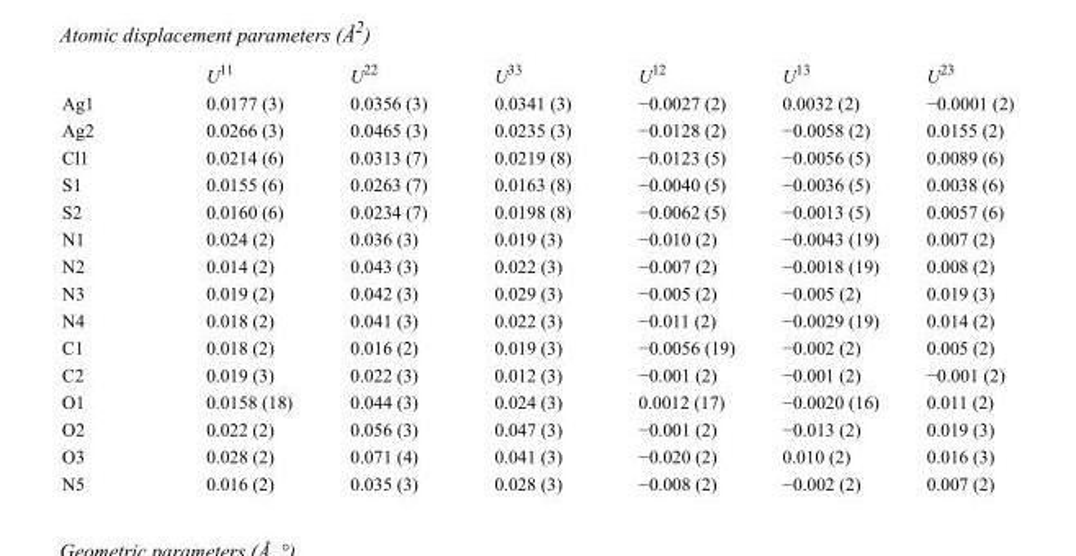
<table><thead><tr><td></td><td>U<sup>11</sup></td><td>U<sup>22</sup></td><td>U<sup>33</sup></td><td>U<sup>12</sup></td><td>U<sup>13</sup></td><td>U<sup>23</sup></td></tr></thead><tbody><tr><td>Ag1</td><td>0.0177 (3)</td><td>0.0356 (3)</td><td>0.0341 (3)</td><td>−0.0027 (2)</td><td>0.0032 (2)</td><td>−0.0001 (2)</td></tr><tr><td>Ag2</td><td>0.0266 (3)</td><td>0.0465 (3)</td><td>0.0235 (3)</td><td>−0.0128 (2)</td><td>−0.0058 (2)</td><td>0.0155 (2)</td></tr><tr><td>Cl1</td><td>0.0214 (6)</td><td>0.0313 (7)</td><td>0.0219 (8)</td><td>−0.0123 (5)</td><td>−0.0056 (5)</td><td>0.0089 (6)</td></tr><tr><td>S1</td><td>0.0155 (6)</td><td>0.0263 (7)</td><td>0.0163 (8)</td><td>−0.0040 (5)</td><td>−0.0036 (5)</td><td>0.0038 (6)</td></tr><tr><td>S2</td><td>0.0160 (6)</td><td>0.0234 (7)</td><td>0.0198 (8)</td><td>−0.0062 (5)</td><td>−0.0013 (5)</td><td>0.0057 (6)</td></tr><tr><td>N1</td><td>0.024 (2)</td><td>0.036 (3)</td><td>0.019 (3)</td><td>−0.010 (2)</td><td>−0.0043 (19)</td><td>0.007 (2)</td></tr><tr><td>N2</td><td>0.014 (2)</td><td>0.043 (3)</td><td>0.022 (3)</td><td>−0.007 (2)</td><td>−0.0018 (19)</td><td>0.008 (2)</td></tr><tr><td>N3</td><td>0.019 (2)</td><td>0.042 (3)</td><td>0.029 (3)</td><td>−0.005 (2)</td><td>−0.005 (2)</td><td>0.019 (3)</td></tr><tr><td>N4</td><td>0.018 (2)</td><td>0.041 (3)</td><td>0.022 (3)</td><td>−0.011 (2)</td><td>−0.0029 (19)</td><td>0.014 (2)</td></tr><tr><td>C1</td><td>0.018 (2)</td><td>0.016 (2)</td><td>0.019 (3)</td><td>−0.0056 (19)</td><td>−0.002 (2)</td><td>0.005 (2)</td></tr><tr><td>C2</td><td>0.019 (3)</td><td>0.022 (3)</td><td>0.012 (3)</td><td>−0.001 (2)</td><td>−0.001 (2)</td><td>−0.001 (2)</td></tr><tr><td>O1</td><td>0.0158 (18)</td><td>0.044 (3)</td><td>0.024 (3)</td><td>0.0012 (17)</td><td>−0.0020 (16)</td><td>0.011 (2)</td></tr><tr><td>O2</td><td>0.022 (2)</td><td>0.056 (3)</td><td>0.047 (3)</td><td>−0.001 (2)</td><td>−0.013 (2)</td><td>0.019 (3)</td></tr><tr><td>O3</td><td>0.028 (2)</td><td>0.071 (4)</td><td>0.041 (3)</td><td>−0.020 (2)</td><td>0.010 (2)</td><td>0.016 (3)</td></tr><tr><td>N5</td><td>0.016 (2)</td><td>0.035 (3)</td><td>0.028 (3)</td><td>−0.008 (2)</td><td>−0.002 (2)</td><td>0.007 (2)</td></tr></tbody></table>